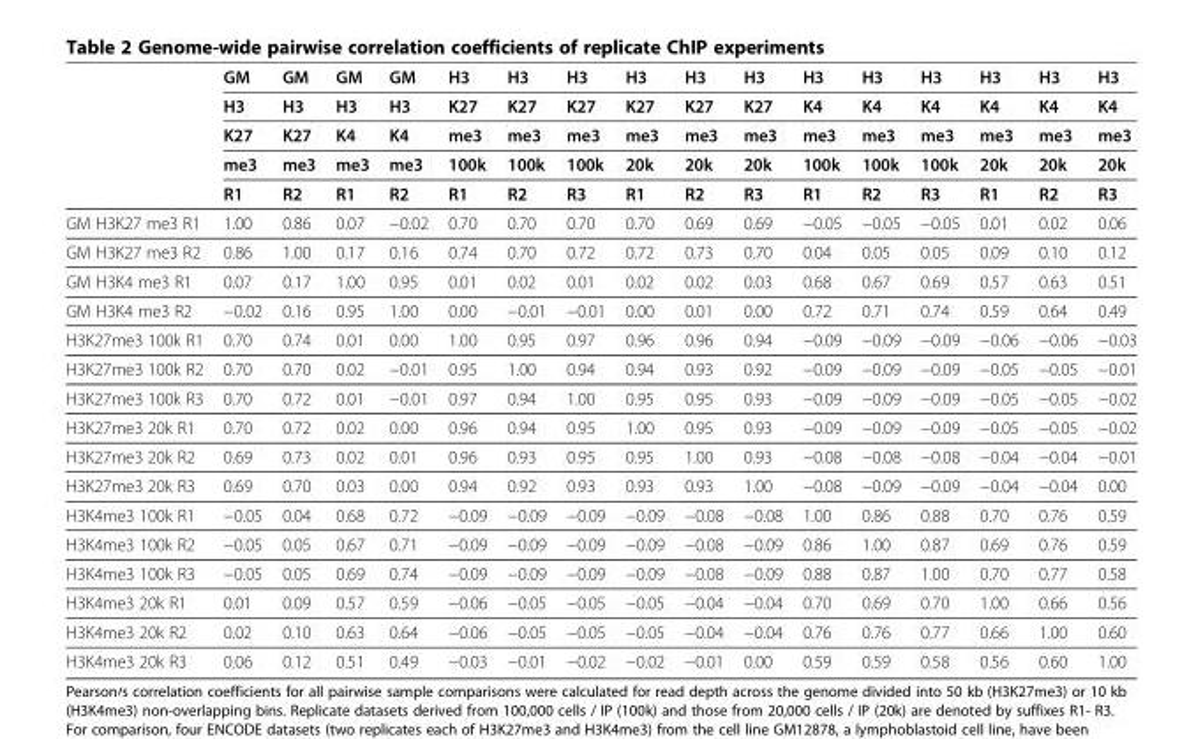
<table><thead><tr><td rowspan="5"></td><td rowspan="5">GM H3 K27 me3 R1</td><td rowspan="5">GM H3 K27 me3 R2</td><td rowspan="5">GM H3 K4 me3 R1</td><td rowspan="5">GM H3 K4 me3 R2</td><td rowspan="5">H3 K27 me3 100k R1</td><td rowspan="5">H3 K27 me3 100k R2</td><td rowspan="5">H3 K27 me3 100k R3</td><td rowspan="5">H3 K27 me3 20k R1</td><td rowspan="5">H3 K27 me3 20k R2</td><td rowspan="5">H3 K27 me3 20k R3</td><td rowspan="5">H3 K4 me3 100k R1</td><td rowspan="5">H3 K4 me3 100k R2</td><td rowspan="5">H3 K4 me3 100k R3</td><td rowspan="5">H3 K4 me3 20k R1</td><td rowspan="5">H3 K4 me3 20k R2</td><td rowspan="5">H3 K4 me3 20k R3</td></tr><tr></tr><tr></tr><tr></tr><tr></tr></thead><tbody><tr><td>GM H3K27 me3 R1</td><td>1.00</td><td>0.86</td><td>0.07</td><td>−0.02</td><td>0.70</td><td>0.70</td><td>0.70</td><td>0.70</td><td>0.69</td><td>0.69</td><td>−0.05</td><td>−0.05</td><td>−0.05</td><td>0.01</td><td>0.02</td><td>0.06</td></tr><tr><td>GM H3K27 me3 R2</td><td>0.86</td><td>1.00</td><td>0.17</td><td>0.16</td><td>0.74</td><td>0.70</td><td>0.72</td><td>0.72</td><td>0.73</td><td>0.70</td><td>0.04</td><td>0.05</td><td>0.05</td><td>0.09</td><td>0.10</td><td>0.12</td></tr><tr><td>GM H3K4 me3 R1</td><td>0.07</td><td>0.17</td><td>1.00</td><td>0.95</td><td>0.01</td><td>0.02</td><td>0.01</td><td>0.02</td><td>0.02</td><td>0.03</td><td>0.68</td><td>0.67</td><td>0.69</td><td>0.57</td><td>0.63</td><td>0.51</td></tr><tr><td>GM H3K4 me3 R2</td><td>−0.02</td><td>0.16</td><td>0.95</td><td>1.00</td><td>0.00</td><td>−0.01</td><td>−0.01</td><td>0.00</td><td>0.01</td><td>0.00</td><td>0.72</td><td>0.71</td><td>0.74</td><td>0.59</td><td>0.64</td><td>0.49</td></tr><tr><td>H3K27me3 100k R1</td><td>0.70</td><td>0.74</td><td>0.01</td><td>0.00</td><td>1.00</td><td>0.95</td><td>0.97</td><td>0.96</td><td>0.96</td><td>0.94</td><td>−0.09</td><td>−0.09</td><td>−0.09</td><td>−0.06</td><td>−0.06</td><td>−0.03</td></tr><tr><td>H3K27me3 100k R2</td><td>0.70</td><td>0.70</td><td>0.02</td><td>−0.01</td><td>0.95</td><td>1.00</td><td>0.94</td><td>0.94</td><td>0.93</td><td>0.92</td><td>−0.09</td><td>−0.09</td><td>−0.09</td><td>−0.05</td><td>−0.05</td><td>−0.01</td></tr><tr><td>H3K27me3 100k R3</td><td>0.70</td><td>0.72</td><td>0.01</td><td>−0.01</td><td>0.97</td><td>0.94</td><td>1.00</td><td>0.95</td><td>0.95</td><td>0.93</td><td>−0.09</td><td>−0.09</td><td>−0.09</td><td>−0.05</td><td>−0.05</td><td>−0.02</td></tr><tr><td>H3K27me3 20k R1</td><td>0.70</td><td>0.72</td><td>0.02</td><td>0.00</td><td>0.96</td><td>0.94</td><td>0.95</td><td>1.00</td><td>0.95</td><td>0.93</td><td>−0.09</td><td>−0.09</td><td>−0.09</td><td>−0.05</td><td>−0.05</td><td>−0.02</td></tr><tr><td>H3K27me3 20k R2</td><td>0.69</td><td>0.73</td><td>0.02</td><td>0.01</td><td>0.96</td><td>0.93</td><td>0.95</td><td>0.95</td><td>1.00</td><td>0.93</td><td>−0.08</td><td>−0.08</td><td>−0.08</td><td>−0.04</td><td>−0.04</td><td>−0.01</td></tr><tr><td>H3K27me3 20k R3</td><td>0.69</td><td>0.70</td><td>0.03</td><td>0.00</td><td>0.94</td><td>0.92</td><td>0.93</td><td>0.93</td><td>0.93</td><td>1.00</td><td>−0.08</td><td>−0.09</td><td>−0.09</td><td>−0.04</td><td>−0.04</td><td>0.00</td></tr><tr><td>H3K4me3 100k R1</td><td>−0.05</td><td>0.04</td><td>0.68</td><td>0.72</td><td>−0.09</td><td>−0.09</td><td>−0.09</td><td>−0.09</td><td>−0.08</td><td>−0.08</td><td>1.00</td><td>0.86</td><td>0.88</td><td>0.70</td><td>0.76</td><td>0.59</td></tr><tr><td>H3K4me3 100k R2</td><td>−0.05</td><td>0.05</td><td>0.67</td><td>0.71</td><td>−0.09</td><td>−0.09</td><td>−0.09</td><td>−0.09</td><td>−0.08</td><td>−0.09</td><td>0.86</td><td>1.00</td><td>0.87</td><td>0.69</td><td>0.76</td><td>0.59</td></tr><tr><td>H3K4me3 100k R3</td><td>−0.05</td><td>0.05</td><td>0.69</td><td>0.74</td><td>−0.09</td><td>−0.09</td><td>−0.09</td><td>−0.09</td><td>−0.08</td><td>−0.09</td><td>0.88</td><td>0.87</td><td>1.00</td><td>0.70</td><td>0.77</td><td>0.58</td></tr><tr><td>H3K4me3 20k R1</td><td>0.01</td><td>0.09</td><td>0.57</td><td>0.59</td><td>−0.06</td><td>−0.05</td><td>−0.05</td><td>−0.05</td><td>−0.04</td><td>−0.04</td><td>0.70</td><td>0.69</td><td>0.70</td><td>1.00</td><td>0.66</td><td>0.56</td></tr><tr><td>H3K4me3 20k R2</td><td>0.02</td><td>0.10</td><td>0.63</td><td>0.64</td><td>−0.06</td><td>−0.05</td><td>−0.05</td><td>−0.05</td><td>−0.04</td><td>−0.04</td><td>0.76</td><td>0.76</td><td>0.77</td><td>0.66</td><td>1.00</td><td>0.60</td></tr><tr><td>H3K4me3 20k R3</td><td>0.06</td><td>0.12</td><td>0.51</td><td>0.49</td><td>−0.03</td><td>−0.01</td><td>−0.02</td><td>−0.02</td><td>−0.01</td><td>0.00</td><td>0.59</td><td>0.59</td><td>0.58</td><td>0.56</td><td>0.60</td><td>1.00</td></tr></tbody></table>